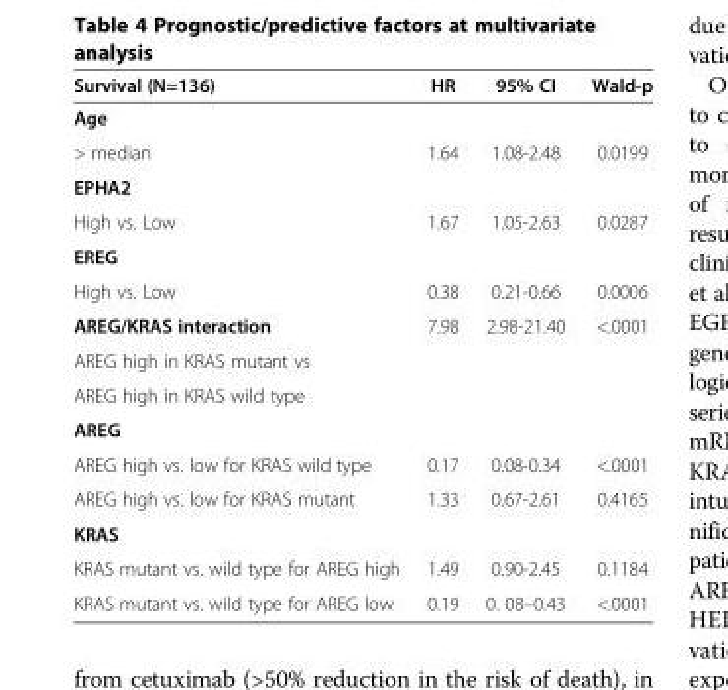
<table><thead><tr><td>Survival (N=136)</td><td>HR</td><td>95% CI</td><td>Wald-p</td></tr></thead><tbody><tr><td colspan="4">Age</td></tr><tr><td>&gt; median</td><td>1.64</td><td>1.08-2.48</td><td>0.0199</td></tr><tr><td colspan="4">EPHA2</td></tr><tr><td>High vs. Low</td><td>1.67</td><td>1.05-2.63</td><td>0.0287</td></tr><tr><td colspan="4">EREG</td></tr><tr><td>High vs. Low</td><td>0.38</td><td>0.21-0.66</td><td>0.0006</td></tr><tr><td>AREG/KRAS interaction</td><td>7.98</td><td>2.98-21.40</td><td>&lt;.0001</td></tr><tr><td colspan="4">AREG high in KRAS mutant vs</td></tr><tr><td colspan="4">AREG high in KRAS wild type</td></tr><tr><td colspan="4">AREG</td></tr><tr><td>AREG high vs. low for KRAS wild type</td><td>0.17</td><td>0.08-0.34</td><td>&lt;.0001</td></tr><tr><td>AREG high vs. low for KRAS mutant</td><td>1.33</td><td>0.67-2.61</td><td>0.4165</td></tr><tr><td colspan="4">KRAS</td></tr><tr><td>KRAS mutant vs. wild type for AREG high</td><td>1.49</td><td>0.90-2.45</td><td>0.1184</td></tr><tr><td>KRAS mutant vs. wild type for AREG low</td><td>0.19</td><td>0. 08–0.43</td><td>&lt;.0001</td></tr></tbody></table>